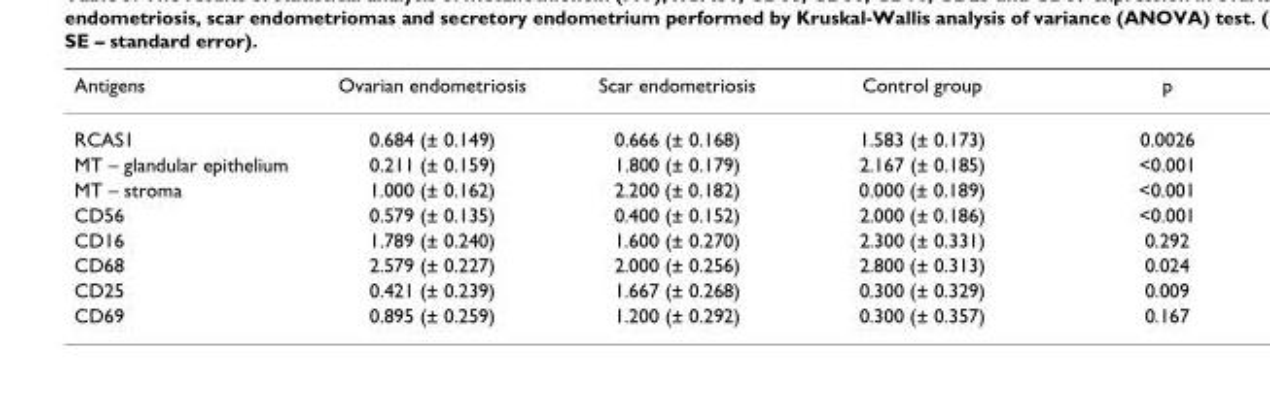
<table><thead><tr><td>Antigens</td><td>Ovarian endometriosis</td><td>Scar endometriosis</td><td>Control group</td><td>p</td></tr></thead><tbody><tr><td>RCAS1</td><td>0.684 (± 0.149)</td><td>0.666 (± 0.168)</td><td>1.583 (± 0.173)</td><td>0.0026</td></tr><tr><td>MT – glandular epithelium</td><td>0.211 (± 0.159)</td><td>1.800 (± 0.179)</td><td>2.167 (± 0.185)</td><td>&lt;0.001</td></tr><tr><td>MT – stroma</td><td>1.000 (± 0.162)</td><td>2.200 (± 0.182)</td><td>0.000 (± 0.189)</td><td>&lt;0.001</td></tr><tr><td>CD56</td><td>0.579 (± 0.135)</td><td>0.400 (± 0.152)</td><td>2.000 (± 0.186)</td><td>&lt;0.001</td></tr><tr><td>CD16</td><td>1.789 (± 0.240)</td><td>1.600 (± 0.270)</td><td>2.300 (± 0.331)</td><td>0.292</td></tr><tr><td>CD68</td><td>2.579 (± 0.227)</td><td>2.000 (± 0.256)</td><td>2.800 (± 0.313)</td><td>0.024</td></tr><tr><td>CD25</td><td>0.421 (± 0.239)</td><td>1.667 (± 0.268)</td><td>0.300 (± 0.329)</td><td>0.009</td></tr><tr><td>CD69</td><td>0.895 (± 0.259)</td><td>1.200 (± 0.292)</td><td>0.300 (± 0.357)</td><td>0.167</td></tr></tbody></table>